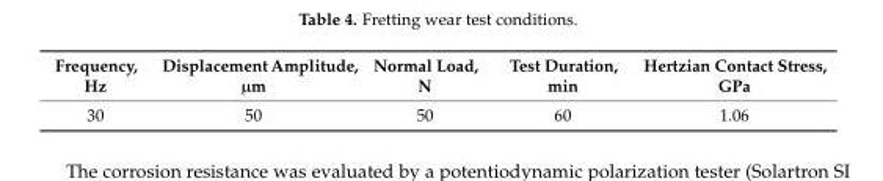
<table><thead><tr><td>Frequency, Hz</td><td>Displacement Amplitude, µm</td><td>Normal Load, N</td><td>Test Duration, min</td><td>Hertzian Contact Stress, GPa</td></tr></thead><tbody><tr><td>30</td><td>50</td><td>50</td><td>60</td><td>1.06</td></tr></tbody></table>